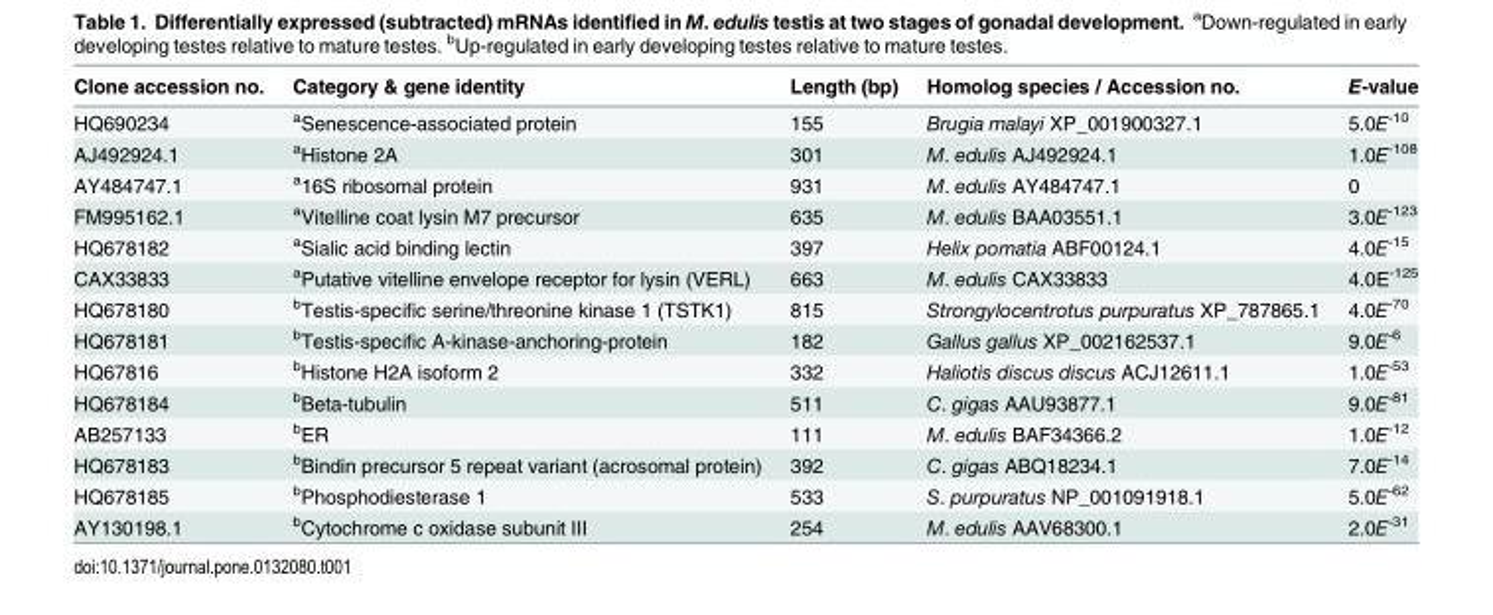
<table><thead><tr><td>Clone accession no.</td><td>Category &amp; gene identity</td><td>Length (bp)</td><td>Homolog species / Accession no.</td><td>E-value</td></tr></thead><tbody><tr><td>HQ690234</td><td><sup>a</sup>Senescence-associated protein</td><td>155</td><td>Brugia malayi XP_001900327.1</td><td>5.0E<sup>-10</sup></td></tr><tr><td>AJ492924.1</td><td><sup>a</sup>Histone 2A</td><td>301</td><td>M. edulis AJ492924.1</td><td>1.0E<sup>-108</sup></td></tr><tr><td>AY484747.1</td><td><sup>a</sup>16S ribosomal protein</td><td>931</td><td>M. edulis AY484747.1</td><td>0</td></tr><tr><td>FM995162.1</td><td><sup>a</sup>Vitelline coat lysin M7 precursor</td><td>635</td><td>M. edulis BAA03551.1</td><td>3.0E<sup>-123</sup></td></tr><tr><td>HQ678182</td><td><sup>a</sup>Sialic acid binding lectin</td><td>397</td><td>Helix pomatia ABF00124.1</td><td>4.0E<sup>-15</sup></td></tr><tr><td>CAX33833</td><td><sup>a</sup>Putative vitelline envelope receptor for lysin (VERL)</td><td>663</td><td>M. edulis CAX33833</td><td>4.0E<sup>-125</sup></td></tr><tr><td>HQ678180</td><td><sup>b</sup>Testis-specific serine/threonine kinase 1 (TSTK1)</td><td>815</td><td>Strongylocentrotus purpuratus XP_787865.1</td><td>4.0E<sup>-70</sup></td></tr><tr><td>HQ678181</td><td><sup>b</sup>Testis-specific A-kinase-anchoring-protein</td><td>182</td><td>Gallus gallus XP_002162537.1</td><td>9.0E<sup>-6</sup></td></tr><tr><td>HQ67816</td><td><sup>b</sup>Histone H2A isoform 2</td><td>332</td><td>Haliotis discus discus ACJ12611.1</td><td>1.0E<sup>-53</sup></td></tr><tr><td>HQ678184</td><td><sup>b</sup>Beta-tubulin</td><td>511</td><td>C. gigas AAU93877.1</td><td>9.0E<sup>-81</sup></td></tr><tr><td>AB257133</td><td><sup>b</sup>ER</td><td>111</td><td>M. edulis BAF34366.2</td><td>1.0E<sup>-12</sup></td></tr><tr><td>HQ678183</td><td><sup>b</sup>Bindin precursor 5 repeat variant (acrosomal protein)</td><td>392</td><td>C. gigas ABQ18234.1</td><td>7.0E<sup>-14</sup></td></tr><tr><td>HQ678185</td><td><sup>b</sup>Phosphodiesterase 1</td><td>533</td><td>S. purpuratus NP_001091918.1</td><td>5.0E<sup>-62</sup></td></tr><tr><td>AY130198.1</td><td><sup>b</sup>Cytochrome c oxidase subunit III</td><td>254</td><td>M. edulis AAV68300.1</td><td>2.0E<sup>-31</sup></td></tr></tbody></table>